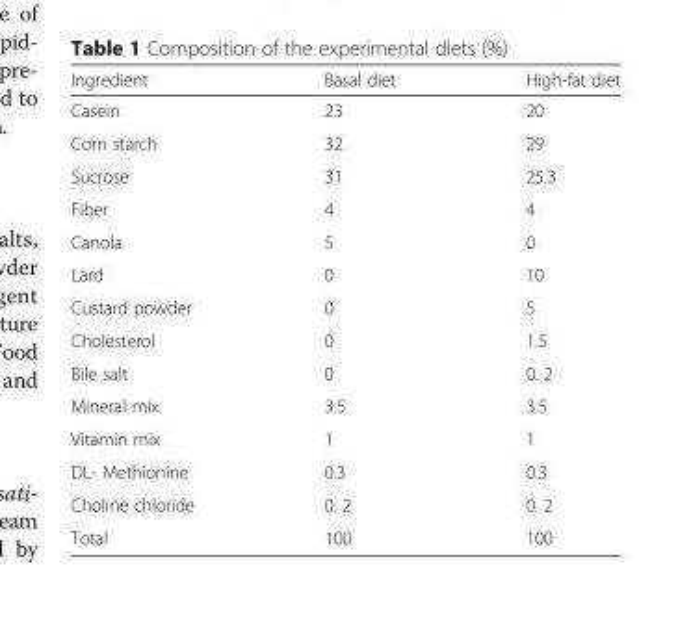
<table><thead><tr><td>Ingredient</td><td>Basal diet</td><td>High-fat diet</td></tr></thead><tbody><tr><td>Casein</td><td>23</td><td>20</td></tr><tr><td>Corn starch</td><td>32</td><td>29</td></tr><tr><td>Sucrose</td><td>31</td><td>25.3</td></tr><tr><td>Fiber</td><td>4</td><td>4</td></tr><tr><td>Canola</td><td>5</td><td>0</td></tr><tr><td>Lard</td><td>0</td><td>10</td></tr><tr><td>Custard powder</td><td>0</td><td>5</td></tr><tr><td>Cholesterol</td><td>0</td><td>1.5</td></tr><tr><td>Bile salt</td><td>0</td><td>0. 2</td></tr><tr><td>Mineral mix</td><td>3.5</td><td>3.5</td></tr><tr><td>Vitamin mix</td><td>1</td><td>1</td></tr><tr><td>DL- Methionine</td><td>0.3</td><td>0.3</td></tr><tr><td>Choline chloride</td><td>0. 2</td><td>0. 2</td></tr><tr><td>Total</td><td>100</td><td>100</td></tr></tbody></table>